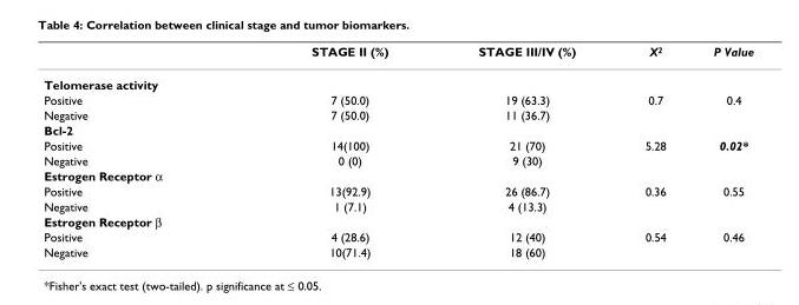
<table><thead><tr><td></td><td>STAGE II (%)</td><td>STAGE III/IV (%)</td><td>X2</td><td>P Value</td></tr></thead><tbody><tr><td colspan="5">Telomerase activity</td></tr><tr><td>Positive</td><td>7 (50.0)</td><td>19 (63.3)</td><td>0.7</td><td>0.4</td></tr><tr><td>Negative</td><td>7 (50.0)</td><td>11 (36.7)</td><td></td><td></td></tr><tr><td colspan="5">Bcl-2</td></tr><tr><td>Positive</td><td>14(100)</td><td>21 (70)</td><td>5.28</td><td>0.02*</td></tr><tr><td>Negative</td><td>0 (0)</td><td>9 (30)</td><td></td><td></td></tr><tr><td colspan="5">Estrogen Receptor α</td></tr><tr><td>Positive</td><td>13(92.9)</td><td>26 (86.7)</td><td>0.36</td><td>0.55</td></tr><tr><td>Negative</td><td>1 (7.1)</td><td>4 (13.3)</td><td></td><td></td></tr><tr><td colspan="5">Estrogen Receptor β</td></tr><tr><td>Positive</td><td>4 (28.6)</td><td>12 (40)</td><td>0.54</td><td>0.46</td></tr><tr><td>Negative</td><td>10(71.4)</td><td>18 (60)</td><td></td><td></td></tr></tbody></table>